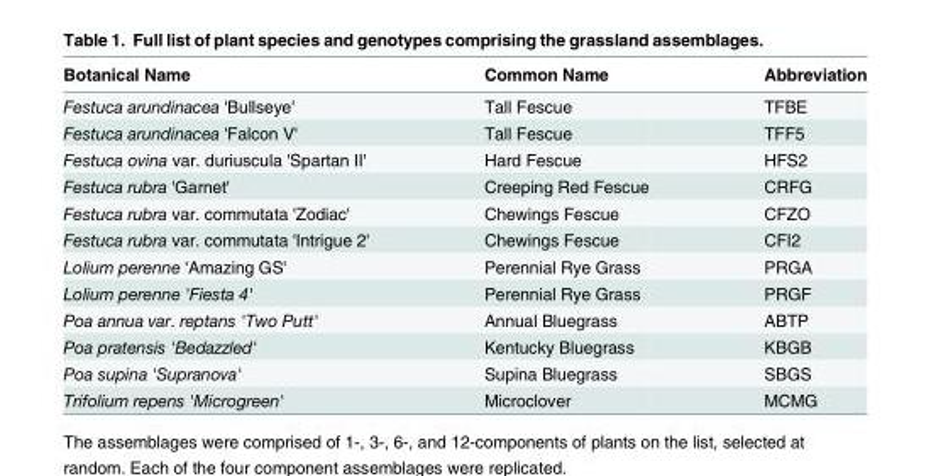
<table><thead><tr><td>Botanical Name</td><td>Common Name</td><td>Abbreviation</td></tr></thead><tbody><tr><td>Festuca arundinacea &#x27;Bullseye&#x27;</td><td>Tall Fescue</td><td>TFBE</td></tr><tr><td>Festuca arundinacea &#x27;Falcon V&#x27;</td><td>Tall Fescue</td><td>TFF5</td></tr><tr><td>Festuca ovina var. duriuscula &#x27;Spartan II&#x27;</td><td>Hard Fescue</td><td>HFS2</td></tr><tr><td>Festuca rubra &#x27;Garnet&#x27;</td><td>Creeping Red Fescue</td><td>CRFG</td></tr><tr><td>Festuca rubra var. commutata &#x27;Zodiac&#x27;</td><td>Chewings Fescue</td><td>CFZO</td></tr><tr><td>Festuca rubra var. commutata &#x27;Intrigue 2&#x27;</td><td>Chewings Fescue</td><td>CFI2</td></tr><tr><td>Lolium perenne &#x27;Amazing GS&#x27;</td><td>Perennial Rye Grass</td><td>PRGA</td></tr><tr><td>Lolium perenne &#x27;Fiesta 4&#x27;</td><td>Perennial Rye Grass</td><td>PRGF</td></tr><tr><td>Poa annua var. reptans &#x27;Two Putt&#x27;</td><td>Annual Bluegrass</td><td>ABTP</td></tr><tr><td>Poa pratensis &#x27;Bedazzled&#x27;</td><td>Kentucky Bluegrass</td><td>KBGB</td></tr><tr><td>Poa supina &#x27;Supranova&#x27;</td><td>Supina Bluegrass</td><td>SBGS</td></tr><tr><td>Trifolium repens &#x27;Microgreen&#x27;</td><td>Microclover</td><td>MCMG</td></tr></tbody></table>